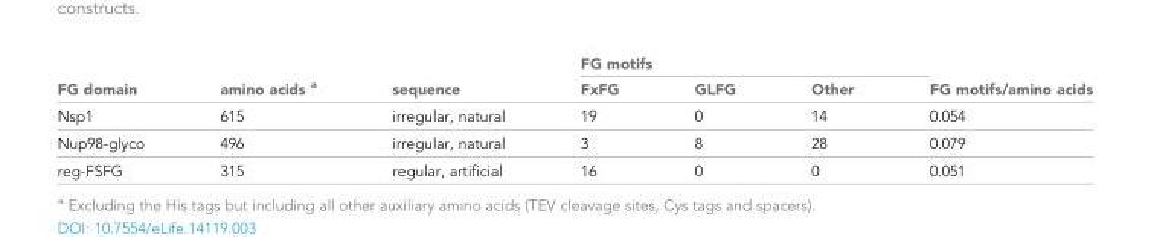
<table><thead><tr><td rowspan="2">FG domain</td><td rowspan="2">amino acids <sup>a</sup></td><td rowspan="2">sequence</td><td colspan="3">FG motifs</td><td rowspan="2">FG motifs/amino acids</td></tr><tr><td>FxFG</td><td>GLFG</td><td>Other</td></tr></thead><tbody><tr><td>Nsp1</td><td>615</td><td>irregular, natural</td><td>19</td><td>0</td><td>14</td><td>0.054</td></tr><tr><td>Nup98-glyco</td><td>496</td><td>irregular, natural</td><td>3</td><td>8</td><td>28</td><td>0.079</td></tr><tr><td>reg-FSFG</td><td>315</td><td>regular, artificial</td><td>16</td><td>0</td><td>0</td><td>0.051</td></tr></tbody></table>